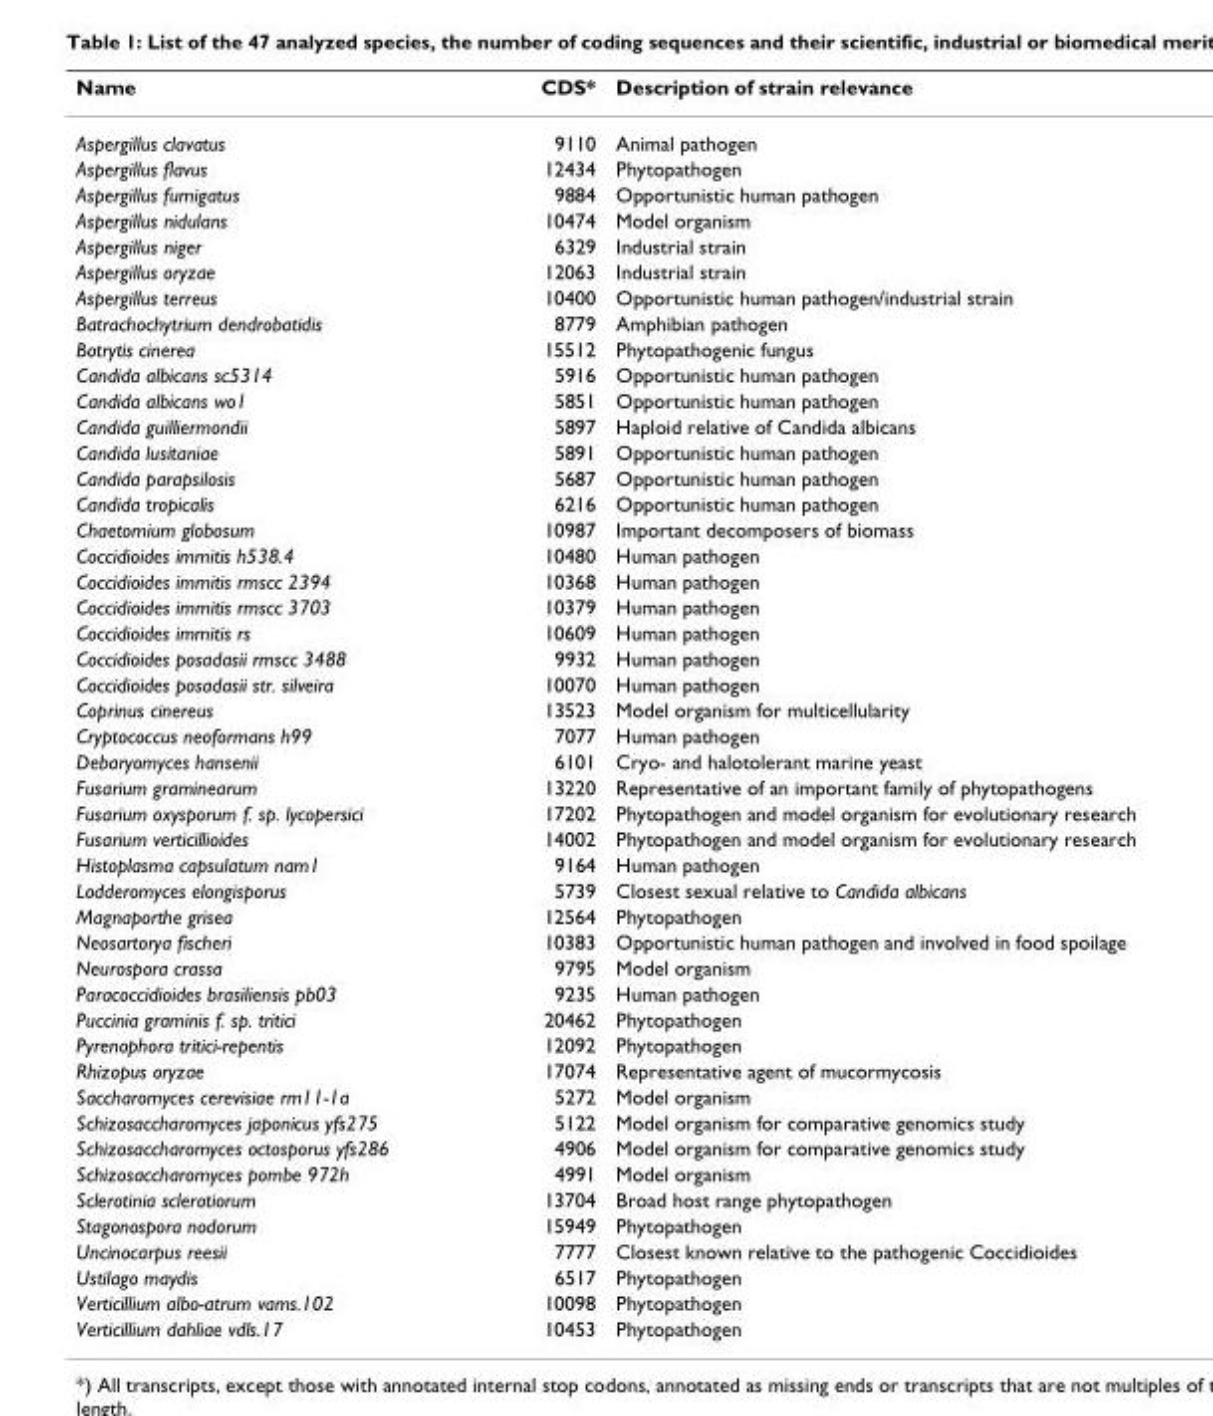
<table><thead><tr><td>Name</td><td>CDS*</td><td>Description of strain relevance</td></tr></thead><tbody><tr><td>Aspergillus clavatus</td><td>9110</td><td>Animal pathogen</td></tr><tr><td>Aspergillus flavus</td><td>12434</td><td>Phytopathogen</td></tr><tr><td>Aspergillus fumigatus</td><td>9884</td><td>Opportunistic human pathogen</td></tr><tr><td>Aspergillus nidulans</td><td>10474</td><td>Model organism</td></tr><tr><td>Aspergillus niger</td><td>6329</td><td>Industrial strain</td></tr><tr><td>Aspergillus oryzae</td><td>12063</td><td>Industrial strain</td></tr><tr><td>Aspergillus terreus</td><td>10400</td><td>Opportunistic human pathogen/industrial strain</td></tr><tr><td>Batrachochytrium dendrobatidis</td><td>8779</td><td>Amphibian pathogen</td></tr><tr><td>Botrytis cinerea</td><td>15512</td><td>Phytopathogenic fungus</td></tr><tr><td>Candida albicans sc5314</td><td>5916</td><td>Opportunistic human pathogen</td></tr><tr><td>Candida albicans wo1</td><td>5851</td><td>Opportunistic human pathogen</td></tr><tr><td>Candida guilliermondii</td><td>5897</td><td>Haploid relative of Candida albicans</td></tr><tr><td>Candida lusitaniae</td><td>5891</td><td>Opportunistic human pathogen</td></tr><tr><td>Candida parapsilosis</td><td>5687</td><td>Opportunistic human pathogen</td></tr><tr><td>Candida tropicalis</td><td>6216</td><td>Opportunistic human pathogen</td></tr><tr><td>Chaetomium globosum</td><td>10987</td><td>Important decomposers of biomass</td></tr><tr><td>Coccidioides immitis h538.4</td><td>10480</td><td>Human pathogen</td></tr><tr><td>Coccidioides immitis rmscc 2394</td><td>10368</td><td>Human pathogen</td></tr><tr><td>Coccidioides immitis rmscc 3703</td><td>10379</td><td>Human pathogen</td></tr><tr><td>Coccidioides immitis rs</td><td>10609</td><td>Human pathogen</td></tr><tr><td>Coccidioides posadasii rmscc 3488</td><td>9932</td><td>Human pathogen</td></tr><tr><td>Coccidioides posadasii str. silveira</td><td>10070</td><td>Human pathogen</td></tr><tr><td>Coprinus cinereus</td><td>13523</td><td>Model organism for multicellularity</td></tr><tr><td>Cryptococcus neoformans h99</td><td>7077</td><td>Human pathogen</td></tr><tr><td>Debaryomyces hansenii</td><td>6101</td><td>Cryo- and halotolerant marine yeast</td></tr><tr><td>Fusarium graminearum</td><td>13220</td><td>Representative of an important family of phytopathogens</td></tr><tr><td>Fusarium oxysporum f. sp. lycopersici</td><td>17202</td><td>Phytopathogen and model organism for evolutionary research</td></tr><tr><td>Fusarium verticillioides</td><td>14002</td><td>Phytopathogen and model organism for evolutionary research</td></tr><tr><td>Histoplasma capsulatum nam1</td><td>9164</td><td>Human pathogen</td></tr><tr><td>Lodderomyces elongisporus</td><td>5739</td><td>Closest sexual relative to Candida albicans</td></tr><tr><td>Magnaporthe grisea</td><td>12564</td><td>Phytopathogen</td></tr><tr><td>Neosartorya fischeri</td><td>10383</td><td>Opportunistic human pathogen and involved in food spoilage</td></tr><tr><td>Neurospora crassa</td><td>9795</td><td>Model organism</td></tr><tr><td>Paracoccidioides brasiliensis pb03</td><td>9235</td><td>Human pathogen</td></tr><tr><td>Puccinia graminis f. sp. tritici</td><td>20462</td><td>Phytopathogen</td></tr><tr><td>Pyrenophora tritici-repentis</td><td>12092</td><td>Phytopathogen</td></tr><tr><td>Rhizopus oryzae</td><td>17074</td><td>Representative agent of mucormycosis</td></tr><tr><td>Saccharomyces cerevisiae rm11-1a</td><td>5272</td><td>Model organism</td></tr><tr><td>Schizosaccharomyces japonicus yfs275</td><td>5122</td><td>Model organism for comparative genomics study</td></tr><tr><td>Schizosaccharomyces octosporus yfs286</td><td>4906</td><td>Model organism for comparative genomics study</td></tr><tr><td>Schizosaccharomyces pombe 972h</td><td>4991</td><td>Model organism</td></tr><tr><td>Sclerotinia sclerotiorum</td><td>13704</td><td>Broad host range phytopathogen</td></tr><tr><td>Stagonospora nodorum</td><td>15949</td><td>Phytopathogen</td></tr><tr><td>Uncinocarpus reesii</td><td>7777</td><td>Closest known relative to the pathogenic Coccidioides</td></tr><tr><td>Ustilago maydis</td><td>6517</td><td>Phytopathogen</td></tr><tr><td>Verticillium albo-atrum vams.102</td><td>10098</td><td>Phytopathogen</td></tr><tr><td>Verticillium dahliae vdls.17</td><td>10453</td><td>Phytopathogen</td></tr></tbody></table>